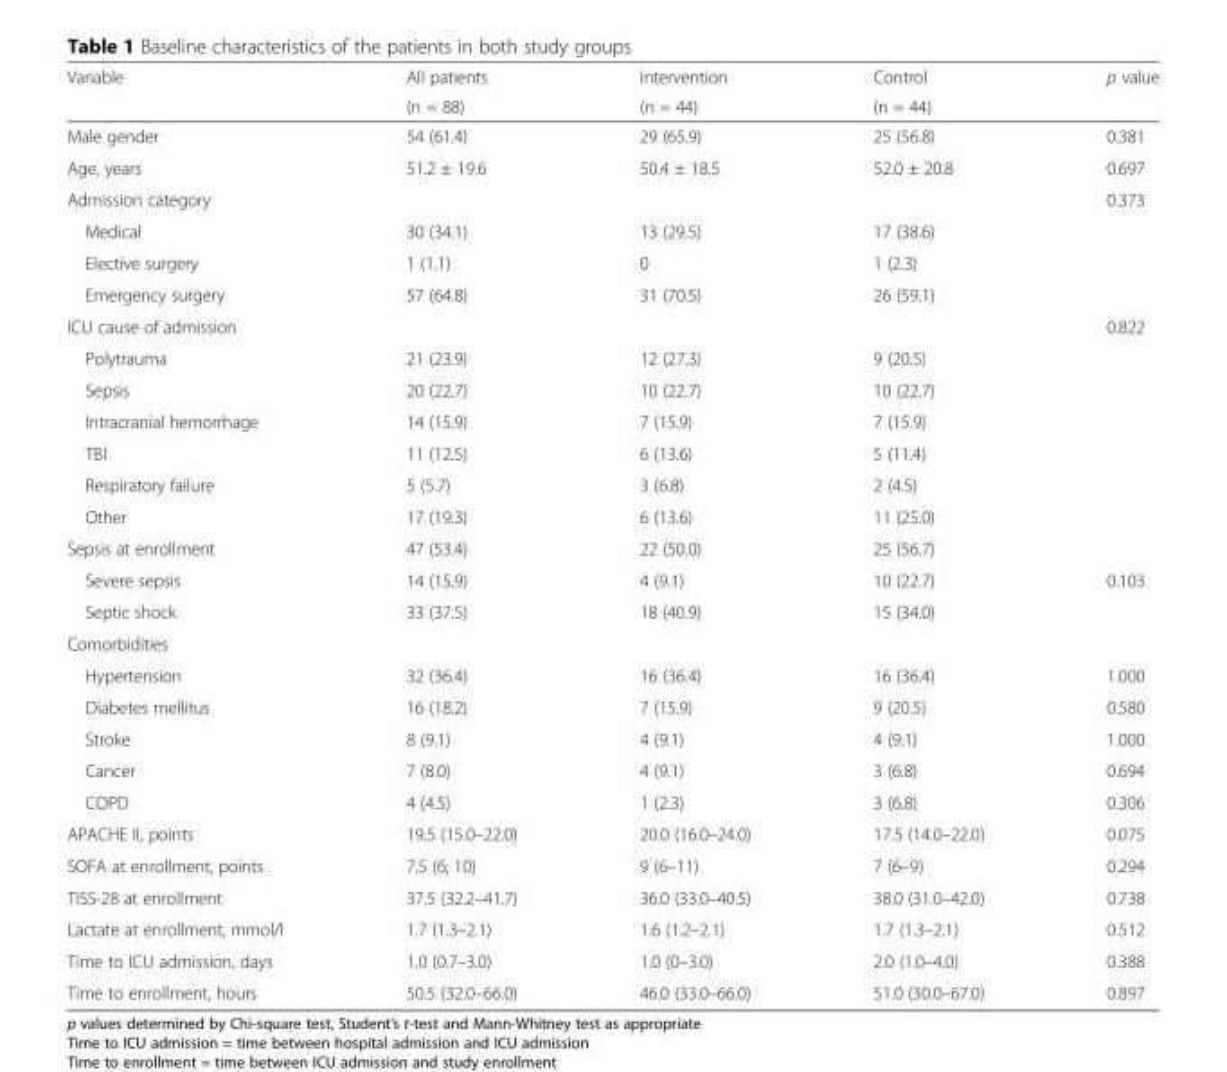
<table><thead><tr><td rowspan="2">Variable</td><td rowspan="2">All patients (n = 88)</td><td rowspan="2">Intervention (n = 44)</td><td rowspan="2">Control (n = 44)</td><td rowspan="2">p value</td></tr><tr></tr></thead><tbody><tr><td>Male gender</td><td>54 (61.4)</td><td>29 (65.9)</td><td>25 (56.8)</td><td>0.381</td></tr><tr><td>Age, years</td><td>51.2 ± 19.6</td><td>50.4 ± 18.5</td><td>52.0 ± 20.8</td><td>0.697</td></tr><tr><td>Admission category</td><td></td><td></td><td></td><td>0.373</td></tr><tr><td>Medical</td><td>30 (34.1)</td><td>13 (29.5)</td><td>17 (38.6)</td><td></td></tr><tr><td>Elective surgery</td><td>1 (1.1)</td><td>0</td><td>1 (2.3)</td><td></td></tr><tr><td>Emergency surgery</td><td>57 (64.8)</td><td>31 (70.5)</td><td>26 (59.1)</td><td></td></tr><tr><td>ICU cause of admission</td><td></td><td></td><td></td><td>0.822</td></tr><tr><td>Polytrauma</td><td>21 (23.9)</td><td>12 (27.3)</td><td>9 (20.5)</td><td></td></tr><tr><td>Sepsis</td><td>20 (22.7)</td><td>10 (22.7)</td><td>10 (22.7)</td><td></td></tr><tr><td>Intracranial hemorrhage</td><td>14 (15.9)</td><td>7 (15.9)</td><td>7 (15.9)</td><td></td></tr><tr><td>TBI</td><td>11 (12.5)</td><td>6 (13.6)</td><td>5 (11.4)</td><td></td></tr><tr><td>Respiratory failure</td><td>5 (5.7)</td><td>3 (6.8)</td><td>2 (4.5)</td><td></td></tr><tr><td>Other</td><td>17 (19.3)</td><td>6 (13.6)</td><td>11 (25.0)</td><td></td></tr><tr><td>Sepsis at enrollment</td><td>47 (53.4)</td><td>22 (50.0)</td><td>25 (56.7)</td><td></td></tr><tr><td>Severe sepsis</td><td>14 (15.9)</td><td>4 (9.1)</td><td>10 (22.7)</td><td>0.103</td></tr><tr><td>Septic shock</td><td>33 (37.5)</td><td>18 (40.9)</td><td>15 (34.0)</td><td></td></tr><tr><td colspan="5">Comorbidities</td></tr><tr><td>Hypertension</td><td>32 (36.4)</td><td>16 (36.4)</td><td>16 (36.4)</td><td>1.000</td></tr><tr><td>Diabetes mellitus</td><td>16 (18.2)</td><td>7 (15.9)</td><td>9 (20.5)</td><td>0.580</td></tr><tr><td>Stroke</td><td>8 (9.1)</td><td>4 (9.1)</td><td>4 (9.1)</td><td>1.000</td></tr><tr><td>Cancer</td><td>7 (8.0)</td><td>4 (9.1)</td><td>3 (6.8)</td><td>0.694</td></tr><tr><td>COPD</td><td>4 (4.5)</td><td>1 (2.3)</td><td>3 (6.8)</td><td>0.306</td></tr><tr><td>APACHE II, points</td><td>19.5 (15.0–22.0)</td><td>20.0 (16.0–24.0)</td><td>17.5 (14.0–22.0)</td><td>0.075</td></tr><tr><td>SOFA at enrollment, points</td><td>7.5 (6; 10)</td><td>9 (6–11)</td><td>7 (6–9)</td><td>0.294</td></tr><tr><td>TISS-28 at enrollment</td><td>37.5 (32.2–41.7)</td><td>36.0 (33.0–40.5)</td><td>38.0 (31.0–42.0)</td><td>0.738</td></tr><tr><td>Lactate at enrollment, mmol/l</td><td>1.7 (1.3–2.1)</td><td>1.6 (1.2–2.1)</td><td>1.7 (1.3–2.1)</td><td>0.512</td></tr><tr><td>Time to ICU admission, days</td><td>1.0 (0.7–3.0)</td><td>1.0 (0–3.0)</td><td>2.0 (1.0–4.0)</td><td>0.388</td></tr><tr><td>Time to enrollment, hours</td><td>50.5 (32.0–66.0)</td><td>46.0 (33.0–66.0)</td><td>51.0 (30.0–67.0)</td><td>0.897</td></tr></tbody></table>